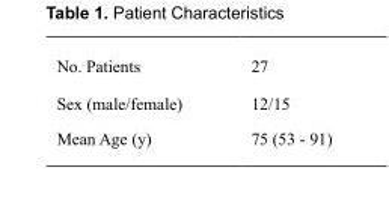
<table><tbody><tr><td>No. Patients</td><td>27</td></tr><tr><td>Sex (male/female)</td><td>12/15</td></tr><tr><td>Mean Age (y)</td><td>75 (53 - 91)</td></tr></tbody></table>